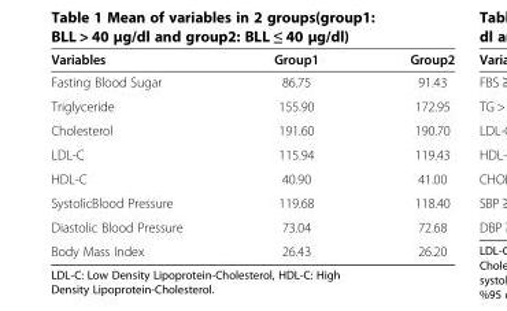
<table><thead><tr><td>Variables</td><td>Group1</td><td>Group2</td></tr></thead><tbody><tr><td>Fasting Blood Sugar</td><td>86.75</td><td>91.43</td></tr><tr><td>Triglyceride</td><td>155.90</td><td>172.95</td></tr><tr><td>Cholesterol</td><td>191.60</td><td>190.70</td></tr><tr><td>LDL-C</td><td>115.94</td><td>119.43</td></tr><tr><td>HDL-C</td><td>40.90</td><td>41.00</td></tr><tr><td>SystolicBlood Pressure</td><td>119.68</td><td>118.40</td></tr><tr><td>Diastolic Blood Pressure</td><td>73.04</td><td>72.68</td></tr><tr><td>Body Mass Index</td><td>26.43</td><td>26.20</td></tr></tbody></table>